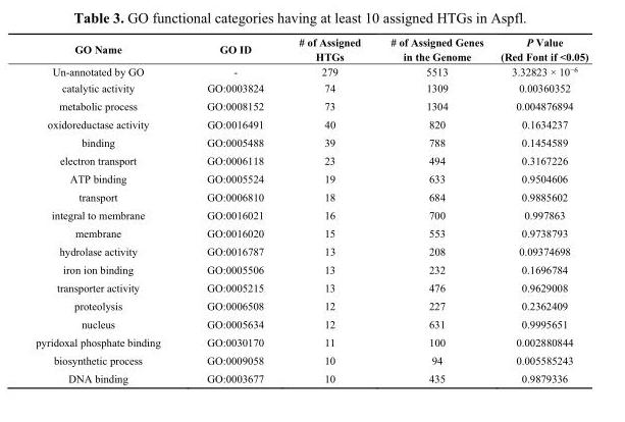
<table><thead><tr><td>GO Name</td><td>GO ID</td><td># of Assigned HTGs</td><td># of Assigned Genes in the Genome</td><td>P Value (Red Font if &lt;0.05)</td></tr></thead><tbody><tr><td>Un-annotated by GO</td><td>-</td><td>279</td><td>5513</td><td>3.32823 × 10<sup>−6</sup></td></tr><tr><td>catalytic activity</td><td>GO:0003824</td><td>74</td><td>1309</td><td>0.00360352</td></tr><tr><td>metabolic process</td><td>GO:0008152</td><td>73</td><td>1304</td><td>0.004876894</td></tr><tr><td>oxidoreductase activity</td><td>GO:0016491</td><td>40</td><td>820</td><td>0.1634237</td></tr><tr><td>binding</td><td>GO:0005488</td><td>39</td><td>788</td><td>0.1454589</td></tr><tr><td>electron transport</td><td>GO:0006118</td><td>23</td><td>494</td><td>0.3167226</td></tr><tr><td>ATP binding</td><td>GO:0005524</td><td>19</td><td>633</td><td>0.9504606</td></tr><tr><td>transport</td><td>GO:0006810</td><td>18</td><td>684</td><td>0.9885602</td></tr><tr><td>integral to membrane</td><td>GO:0016021</td><td>16</td><td>700</td><td>0.997863</td></tr><tr><td>membrane</td><td>GO:0016020</td><td>15</td><td>553</td><td>0.9738793</td></tr><tr><td>hydrolase activity</td><td>GO:0016787</td><td>13</td><td>208</td><td>0.09374698</td></tr><tr><td>iron ion binding</td><td>GO:0005506</td><td>13</td><td>232</td><td>0.1696784</td></tr><tr><td>transporter activity</td><td>GO:0005215</td><td>13</td><td>476</td><td>0.9629008</td></tr><tr><td>proteolysis</td><td>GO:0006508</td><td>12</td><td>227</td><td>0.2362409</td></tr><tr><td>nucleus</td><td>GO:0005634</td><td>12</td><td>631</td><td>0.9995651</td></tr><tr><td>pyridoxal phosphate binding</td><td>GO:0030170</td><td>11</td><td>100</td><td>0.002880844</td></tr><tr><td>biosynthetic process</td><td>GO:0009058</td><td>10</td><td>94</td><td>0.005585243</td></tr><tr><td>DNA binding</td><td>GO:0003677</td><td>10</td><td>435</td><td>0.9879336</td></tr></tbody></table>